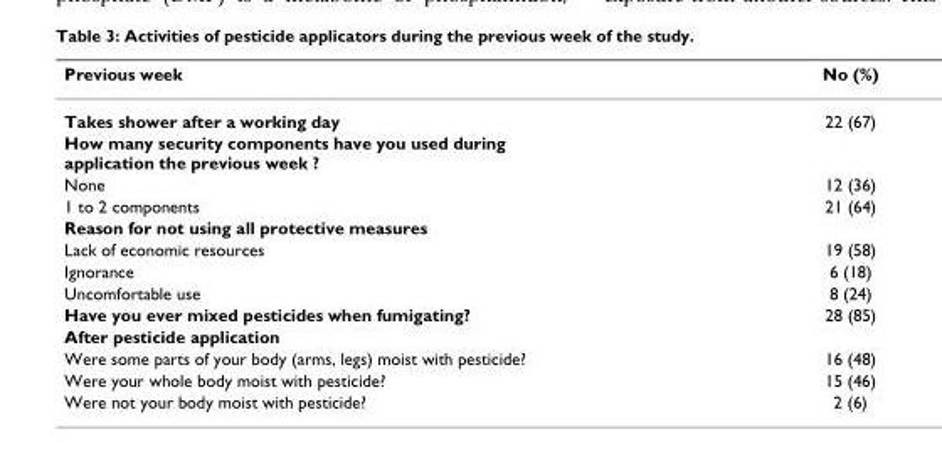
<table><thead><tr><td>Previous week</td><td>No (%)</td></tr></thead><tbody><tr><td>Takes shower after a working day</td><td>22 (67)</td></tr><tr><td colspan="2">How many security components have you used during application the previous week ?</td></tr><tr><td>None</td><td>12 (36)</td></tr><tr><td>1 to 2 components</td><td>21 (64)</td></tr><tr><td colspan="2">Reason for not using all protective measures</td></tr><tr><td>Lack of economic resources</td><td>19 (58)</td></tr><tr><td>Ignorance</td><td>6 (18)</td></tr><tr><td>Uncomfortable use</td><td>8 (24)</td></tr><tr><td>Have you ever mixed pesticides when fumigating?</td><td>28 (85)</td></tr><tr><td colspan="2">After pesticide application</td></tr><tr><td>Were some parts of your body (arms, legs) moist with pesticide?</td><td>16 (48)</td></tr><tr><td>Were your whole body moist with pesticide?</td><td>15 (46)</td></tr><tr><td>Were not your body moist with pesticide?</td><td>2 (6)</td></tr></tbody></table>